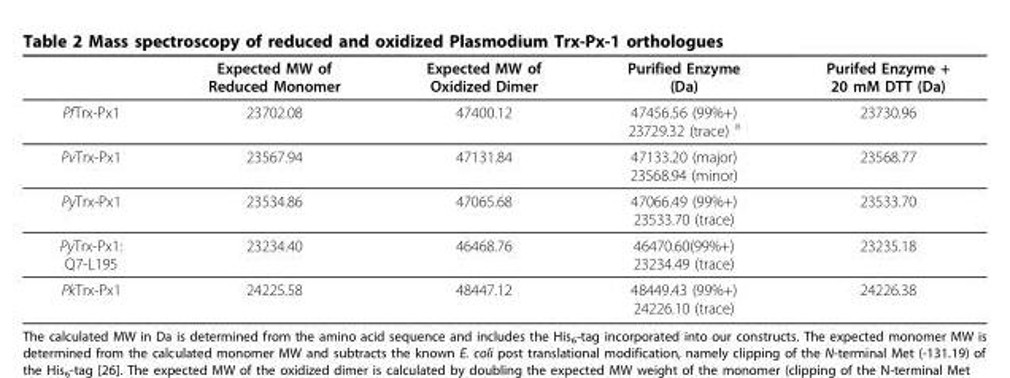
<table><thead><tr><td></td><td>Expected MW of Reduced Monomer</td><td>Expected MW of Oxidized Dimer</td><td>Purified Enzyme (Da)</td><td>Purifed Enzyme + 20 mM DTT (Da)</td></tr></thead><tbody><tr><td>PfTrx-Px1</td><td>23702.08</td><td>47400.12</td><td>47456.56 (99%+) 23729.32 (trace) <sup>a</sup></td><td>23730.96</td></tr><tr><td>PvTrx-Px1</td><td>23567.94</td><td>47131.84</td><td>47133.20 (major) 23568.94 (minor)</td><td>23568.77</td></tr><tr><td>PyTrx-Px1</td><td>23534.86</td><td>47065.68</td><td>47066.49 (99%+) 23533.70 (trace)</td><td>23533.70</td></tr><tr><td>PyTrx-Px1: Q7-L195</td><td>23234.40</td><td>46468.76</td><td>46470.60(99%+) 23234.49 (trace)</td><td>23235.18</td></tr><tr><td>PkTrx-Px1</td><td>24225.58</td><td>48447.12</td><td>48449.43 (99%+) 24226.10 (trace)</td><td>24226.38</td></tr></tbody></table>